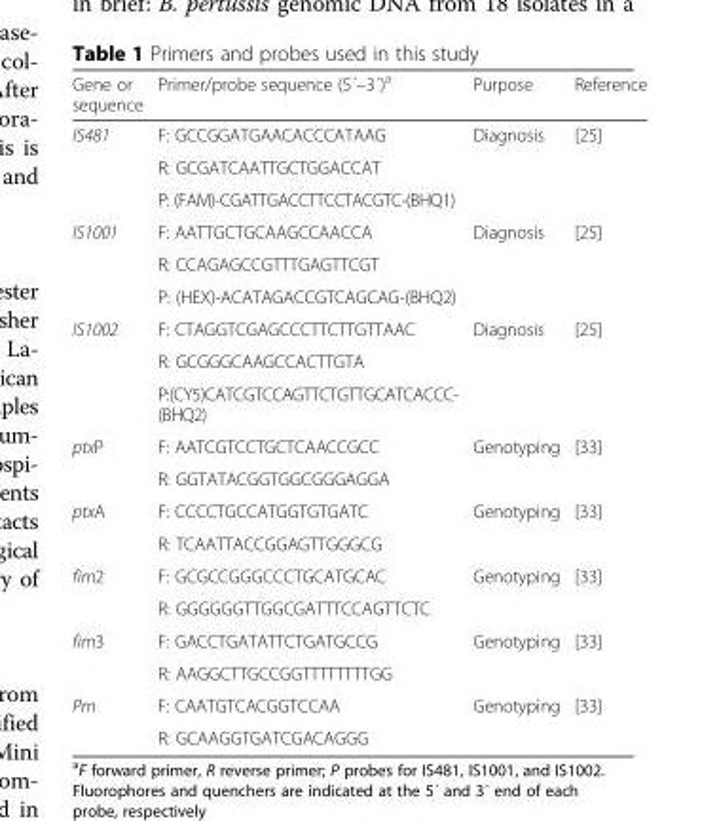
<table><thead><tr><td>Gene or sequence</td><td>Primer/probe sequence (5´–3´)<sup>a</sup></td><td>Purpose</td><td>Reference</td></tr></thead><tbody><tr><td rowspan="3">IS481</td><td>F: GCCGGATGAACACCCATAAG</td><td rowspan="3">Diagnosis</td><td rowspan="3">[25]</td></tr><tr><td>R: GCGATCAATTGCTGGACCAT</td></tr><tr><td>P: (FAM)-CGATTGACCTTCCTACGTC-(BHQ1)</td></tr><tr><td rowspan="3">IS1001</td><td>F: AATTGCTGCAAGCCAACCA</td><td rowspan="3">Diagnosis</td><td rowspan="3">[25]</td></tr><tr><td>R: CCAGAGCCGTTTGAGTTCGT</td></tr><tr><td>P: (HEX)-ACATAGACCGTCAGCAG-(BHQ2)</td></tr><tr><td rowspan="3">IS1002</td><td>F: CTAGGTCGAGCCCTTCTTGTTAAC</td><td rowspan="3">Diagnosis</td><td rowspan="3">[25]</td></tr><tr><td>R: GCGGGCAAGCCACTTGTA</td></tr><tr><td>P:(CY5)CATCGTCCAGTTCTGTTGCATCACCC- (BHQ2)</td></tr><tr><td rowspan="2">ptxP</td><td>F: AATCGTCCTGCTCAACCGCC</td><td rowspan="2">Genotyping</td><td rowspan="2">[33]</td></tr><tr><td>R: GGTATACGGTGGCGGGAGGA</td></tr><tr><td rowspan="2">ptxA</td><td>F: CCCCTGCCATGGTGTGATC</td><td rowspan="2">Genotyping</td><td rowspan="2">[33]</td></tr><tr><td>R: TCAATTACCGGAGTTGGGCG</td></tr><tr><td rowspan="2">fim2</td><td>F: GCGCCGGGCCCTGCATGCAC</td><td rowspan="2">Genotyping</td><td rowspan="2">[33]</td></tr><tr><td>R: GGGGGGTTGGCGATTTCCAGTTCTC</td></tr><tr><td rowspan="2">fim3</td><td>F: GACCTGATATTCTGATGCCG</td><td rowspan="2">Genotyping</td><td rowspan="2">[33]</td></tr><tr><td>R: AAGGCTTGCCGGTTTTTTTTGG</td></tr><tr><td rowspan="2">Prn</td><td>F: CAATGTCACGGTCCAA</td><td rowspan="2">Genotyping</td><td rowspan="2">[33]</td></tr><tr><td>R: GCAAGGTGATCGACAGGG</td></tr></tbody></table>